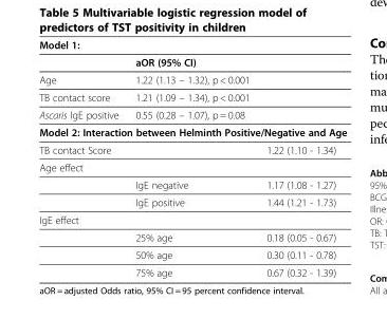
<table><thead><tr><td colspan="3">Model 1:</td></tr><tr><td></td><td>aOR (95% CI)</td><td></td></tr></thead><tbody><tr><td>Age</td><td>1.22 (1.13 – 1.32), p &lt; 0.001</td><td></td></tr><tr><td>TB contact score</td><td>1.21 (1.09 – 1.34), p &lt; 0.001</td><td></td></tr><tr><td>Ascaris IgE positive</td><td>0.55 (0.28 – 1.07), p = 0.08</td><td></td></tr><tr><td colspan="3">Model 2: Interaction between Helminth Positive/Negative and Age</td></tr><tr><td>TB contact Score</td><td></td><td>1.22 (1.10 - 1.34)</td></tr><tr><td colspan="3">Age effect</td></tr><tr><td></td><td>IgE negative</td><td>1.17 (1.08 - 1.27)</td></tr><tr><td></td><td>IgE positive</td><td>1.44 (1.21 - 1.73)</td></tr><tr><td colspan="3">IgE effect</td></tr><tr><td></td><td>25% age</td><td>0.18 (0.05 - 0.67)</td></tr><tr><td></td><td>50% age</td><td>0.30 (0.11 - 0.78)</td></tr><tr><td></td><td>75% age</td><td>0.67 (0.32 - 1.39)</td></tr></tbody></table>